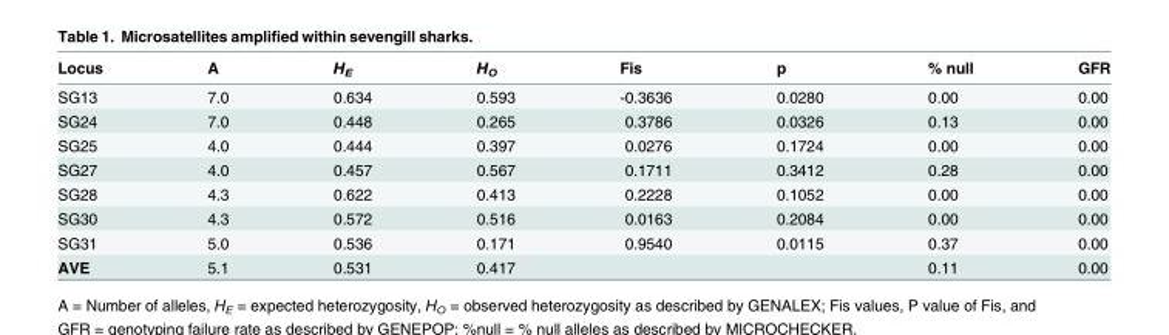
<table><thead><tr><td>Locus</td><td>A</td><td>H<sub>E</sub></td><td>H<sub>O</sub></td><td>Fis</td><td>p</td><td>% null</td><td>GFR</td></tr></thead><tbody><tr><td>SG13</td><td>7.0</td><td>0.634</td><td>0.593</td><td>-0.3636</td><td>0.0280</td><td>0.00</td><td>0.00</td></tr><tr><td>SG24</td><td>7.0</td><td>0.448</td><td>0.265</td><td>0.3786</td><td>0.0326</td><td>0.13</td><td>0.00</td></tr><tr><td>SG25</td><td>4.0</td><td>0.444</td><td>0.397</td><td>0.0276</td><td>0.1724</td><td>0.00</td><td>0.00</td></tr><tr><td>SG27</td><td>4.0</td><td>0.457</td><td>0.567</td><td>0.1711</td><td>0.3412</td><td>0.28</td><td>0.00</td></tr><tr><td>SG28</td><td>4.3</td><td>0.622</td><td>0.413</td><td>0.2228</td><td>0.1052</td><td>0.00</td><td>0.00</td></tr><tr><td>SG30</td><td>4.3</td><td>0.572</td><td>0.516</td><td>0.0163</td><td>0.2084</td><td>0.00</td><td>0.00</td></tr><tr><td>SG31</td><td>5.0</td><td>0.536</td><td>0.171</td><td>0.9540</td><td>0.0115</td><td>0.37</td><td>0.00</td></tr><tr><td>AVE</td><td>5.1</td><td>0.531</td><td>0.417</td><td></td><td></td><td>0.11</td><td>0.00</td></tr></tbody></table>